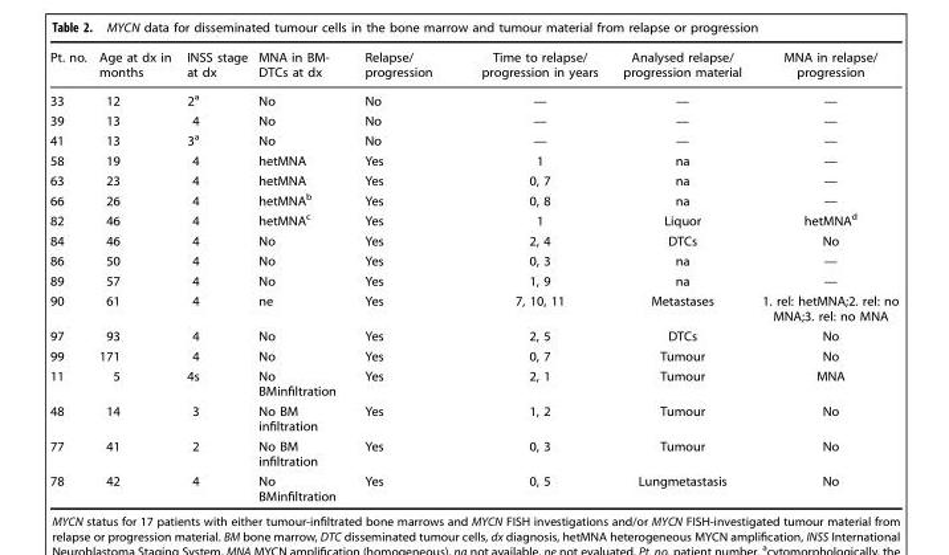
<table><thead><tr><td>Pt. no.</td><td>Age at dx in months</td><td>INSS stage at dx</td><td>MNA in BM- DTCs at dx</td><td>Relapse/ progression</td><td>Time to relapse/ progression in years</td><td>Analysed relapse/ progression material</td><td>MNA in relapse/ progression</td></tr></thead><tbody><tr><td>33</td><td>12</td><td>2<sup>a</sup></td><td>No</td><td>No</td><td>—</td><td>—</td><td>—</td></tr><tr><td>39</td><td>13</td><td>4</td><td>No</td><td>No</td><td>—</td><td>—</td><td>—</td></tr><tr><td>41</td><td>13</td><td>3<sup>a</sup></td><td>No</td><td>No</td><td>—</td><td>—</td><td>—</td></tr><tr><td>58</td><td>19</td><td>4</td><td>hetMNA</td><td>Yes</td><td>1</td><td>na</td><td>—</td></tr><tr><td>63</td><td>23</td><td>4</td><td>hetMNA</td><td>Yes</td><td>0, 7</td><td>na</td><td>—</td></tr><tr><td>66</td><td>26</td><td>4</td><td>hetMNA<sup>b</sup></td><td>Yes</td><td>0, 8</td><td>na</td><td>—</td></tr><tr><td>82</td><td>46</td><td>4</td><td>hetMNA<sup>c</sup></td><td>Yes</td><td>1</td><td>Liquor</td><td>hetMNA<sup>d</sup></td></tr><tr><td>84</td><td>46</td><td>4</td><td>No</td><td>Yes</td><td>2, 4</td><td>DTCs</td><td>No</td></tr><tr><td>86</td><td>50</td><td>4</td><td>No</td><td>Yes</td><td>0, 3</td><td>na</td><td>—</td></tr><tr><td>89</td><td>57</td><td>4</td><td>No</td><td>Yes</td><td>1, 9</td><td>na</td><td>—</td></tr><tr><td>90</td><td>61</td><td>4</td><td>ne</td><td>Yes</td><td>7, 10, 11</td><td>Metastases</td><td>1. rel: hetMNA;2. rel: no MNA;3. rel: no MNA</td></tr><tr><td>97</td><td>93</td><td>4</td><td>No</td><td>Yes</td><td>2, 5</td><td>DTCs</td><td>No</td></tr><tr><td>99</td><td>171</td><td>4</td><td>No</td><td>Yes</td><td>0, 7</td><td>Tumour</td><td>No</td></tr><tr><td>11</td><td>5</td><td>4s</td><td>No BMinfiltration</td><td>Yes</td><td>2, 1</td><td>Tumour</td><td>MNA</td></tr><tr><td>48</td><td>14</td><td>3</td><td>No BM infiltration</td><td>Yes</td><td>1, 2</td><td>Tumour</td><td>No</td></tr><tr><td>77</td><td>41</td><td>2</td><td>No BM infiltration</td><td>Yes</td><td>0, 3</td><td>Tumour</td><td>No</td></tr><tr><td>78</td><td>42</td><td>4</td><td>No BMinfiltration</td><td>Yes</td><td>0, 5</td><td>Lungmetastasis</td><td>No</td></tr></tbody></table>